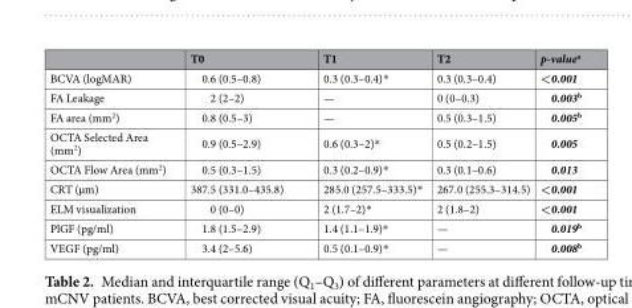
<table><thead><tr><td></td><td>T0</td><td>T1</td><td>T2</td><td>p-value<sup>a</sup></td></tr></thead><tbody><tr><td>BCVA (logMAR)</td><td>0.6 (0.5–0.8)</td><td>0.3 (0.3–0.4)*</td><td>0.3 (0.3–0.4)</td><td>&lt;0.001</td></tr><tr><td>FA Leakage</td><td>2 (2–2)</td><td>—</td><td>0 (0–0.3)</td><td>0.003<sup>b</sup></td></tr><tr><td>FA area (mm<sup>2</sup>)</td><td>0.8 (0.5–3)</td><td>—</td><td>0.5 (0.3–1.5)</td><td>0.005<sup>b</sup></td></tr><tr><td>OCTA Selected Area (mm<sup>2</sup>)</td><td>0.9 (0.5–2.9)</td><td>0.6 (0.3–2)*</td><td>0.5 (0.2–1.5)</td><td>0.005</td></tr><tr><td>OCTA Flow Area (mm<sup>2</sup>)</td><td>0.5 (0.3–1.5)</td><td>0.3 (0.2–0.9)*</td><td>0.3 (0.1–0.6)</td><td>0.013</td></tr><tr><td>CRT (µm)</td><td>387.5 (331.0–435.8)</td><td>285.0 (257.5–333.5)*</td><td>267.0 (255.3–314.5)</td><td>&lt;0.001</td></tr><tr><td>ELM visualization</td><td>0 (0–0)</td><td>2 (1.7–2)*</td><td>2 (1.8–2)</td><td>&lt;0.001</td></tr><tr><td>PlGF (pg/ml)</td><td>1.8 (1.5–2.9)</td><td>1.4 (1.1–1.9)*</td><td>—</td><td>0.019<sup>b</sup></td></tr><tr><td>VEGF (pg/ml)</td><td>3.4 (2–5.6)</td><td>0.5 (0.1–0.9)*</td><td>—</td><td>0.008<sup>b</sup></td></tr></tbody></table>